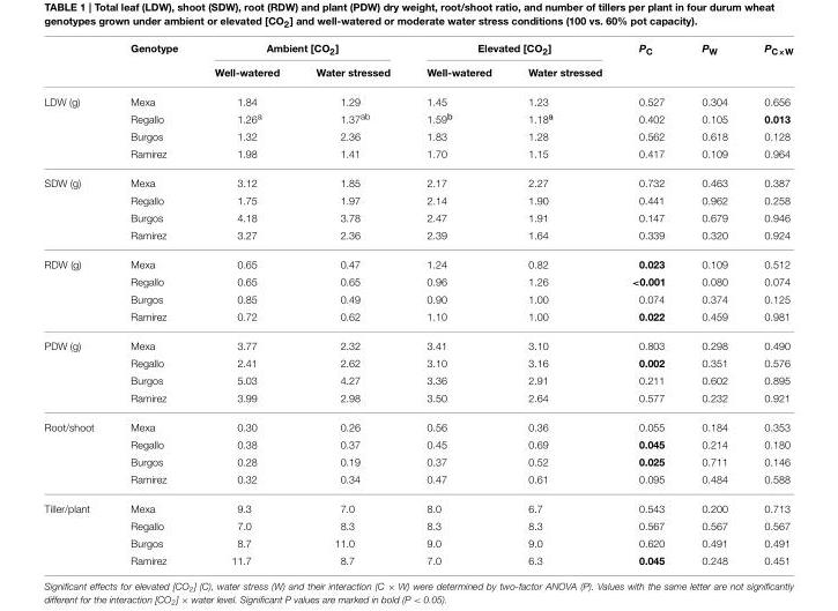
<table><thead><tr><td rowspan="2"></td><td rowspan="2">Genotype</td><td colspan="2">Ambient [CO<sub>2</sub>]</td><td colspan="2">Elevated [CO<sub>2</sub>]</td><td rowspan="2">P<sub>C</sub></td><td rowspan="2">P<sub>W</sub></td><td rowspan="2">P<sub>C×W</sub></td></tr><tr><td>Well-watered</td><td>Water stressed</td><td>Well-watered</td><td>Water stressed</td></tr></thead><tbody><tr><td rowspan="4">LDW (g)</td><td>Mexa</td><td>1.84</td><td>1.29</td><td>1.45</td><td>1.23</td><td>0.527</td><td>0.304</td><td>0.656</td></tr><tr><td>Regallo</td><td>1.26<sup>a</sup></td><td>1.37<sup>ab</sup></td><td>1.59<sup>b</sup></td><td>1.18<sup>a</sup></td><td>0.402</td><td>0.105</td><td>0.013</td></tr><tr><td>Burgos</td><td>1.32</td><td>2.36</td><td>1.83</td><td>1.28</td><td>0.562</td><td>0.618</td><td>0.128</td></tr><tr><td>Ramirez</td><td>1.98</td><td>1.41</td><td>1.70</td><td>1.15</td><td>0.417</td><td>0.109</td><td>0.964</td></tr><tr><td rowspan="4">SDW (g)</td><td>Mexa</td><td>3.12</td><td>1.85</td><td>2.17</td><td>2.27</td><td>0.732</td><td>0.463</td><td>0.387</td></tr><tr><td>Regallo</td><td>1.75</td><td>1.97</td><td>2.14</td><td>1.90</td><td>0.441</td><td>0.962</td><td>0.258</td></tr><tr><td>Burgos</td><td>4.18</td><td>3.78</td><td>2.47</td><td>1.91</td><td>0.147</td><td>0.679</td><td>0.946</td></tr><tr><td>Ramirez</td><td>3.27</td><td>2.36</td><td>2.39</td><td>1.64</td><td>0.339</td><td>0.320</td><td>0.924</td></tr><tr><td rowspan="4">RDW (g)</td><td>Mexa</td><td>0.65</td><td>0.47</td><td>1.24</td><td>0.82</td><td>0.023</td><td>0.109</td><td>0.512</td></tr><tr><td>Regallo</td><td>0.65</td><td>0.65</td><td>0.96</td><td>1.26</td><td>&lt;0.001</td><td>0.080</td><td>0.074</td></tr><tr><td>Burgos</td><td>0.85</td><td>0.49</td><td>0.90</td><td>1.00</td><td>0.074</td><td>0.374</td><td>0.125</td></tr><tr><td>Ramirez</td><td>0.72</td><td>0.62</td><td>1.10</td><td>1.00</td><td>0.022</td><td>0.459</td><td>0.981</td></tr><tr><td rowspan="4">PDW (g)</td><td>Mexa</td><td>3.77</td><td>2.32</td><td>3.41</td><td>3.10</td><td>0.803</td><td>0.298</td><td>0.490</td></tr><tr><td>Regallo</td><td>2.41</td><td>2.62</td><td>3.10</td><td>3.16</td><td>0.002</td><td>0.351</td><td>0.576</td></tr><tr><td>Burgos</td><td>5.03</td><td>4.27</td><td>3.36</td><td>2.91</td><td>0.211</td><td>0.602</td><td>0.895</td></tr><tr><td>Ramirez</td><td>3.99</td><td>2.98</td><td>3.50</td><td>2.64</td><td>0.577</td><td>0.232</td><td>0.921</td></tr><tr><td rowspan="4">Root/shoot</td><td>Mexa</td><td>0.30</td><td>0.26</td><td>0.56</td><td>0.36</td><td>0.055</td><td>0.184</td><td>0.353</td></tr><tr><td>Regallo</td><td>0.38</td><td>0.37</td><td>0.45</td><td>0.69</td><td>0.045</td><td>0.214</td><td>0.180</td></tr><tr><td>Burgos</td><td>0.28</td><td>0.19</td><td>0.37</td><td>0.52</td><td>0.025</td><td>0.711</td><td>0.146</td></tr><tr><td>Ramirez</td><td>0.32</td><td>0.34</td><td>0.47</td><td>0.61</td><td>0.095</td><td>0.484</td><td>0.588</td></tr><tr><td rowspan="4">Tiller/plant</td><td>Mexa</td><td>9.3</td><td>7.0</td><td>8.0</td><td>6.7</td><td>0.543</td><td>0.200</td><td>0.713</td></tr><tr><td>Regallo</td><td>7.0</td><td>8.3</td><td>8.3</td><td>8.3</td><td>0.567</td><td>0.567</td><td>0.567</td></tr><tr><td>Burgos</td><td>8.7</td><td>11.0</td><td>9.0</td><td>9.0</td><td>0.620</td><td>0.491</td><td>0.491</td></tr><tr><td>Ramirez</td><td>11.7</td><td>8.7</td><td>7.0</td><td>6.3</td><td>0.045</td><td>0.248</td><td>0.451</td></tr></tbody></table>